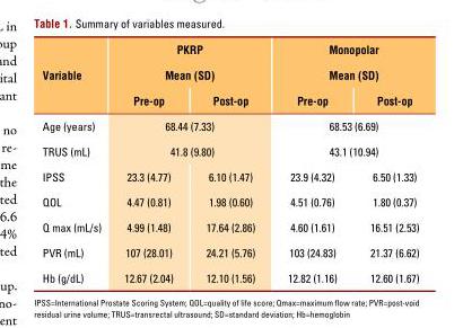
<table><thead><tr><td rowspan="2">Variable</td><td colspan="2">PKRP Mean (SD)</td><td colspan="2">Monopolar Mean (SD)</td></tr><tr><td>Pre-op</td><td>Post-op</td><td>Pre-op</td><td>Post-op</td></tr></thead><tbody><tr><td>Age (years)</td><td colspan="2">68.44 (7.33)</td><td colspan="2">68.53 (6.69)</td></tr><tr><td>TRUS (mL)</td><td colspan="2">41.8 (9.80)</td><td colspan="2">43.1 (10.94)</td></tr><tr><td>IPSS</td><td>23.3 (4.77)</td><td>6.10 (1.47)</td><td>23.9 (4.32)</td><td>6.50 (1.33)</td></tr><tr><td>QOL</td><td>4.47 (0.81)</td><td>1.98 (0.60)</td><td>4.51 (0.76)</td><td>1.80 (0.37)</td></tr><tr><td>Q max (mL/s)</td><td>4.99 (1.48)</td><td>17.64 (2.86)</td><td>4.60 (1.61)</td><td>16.51 (2.53)</td></tr><tr><td>PVR (mL)</td><td>107 (28.01)</td><td>24.21 (5.76)</td><td>103 (24.83)</td><td>21.37 (6.62)</td></tr><tr><td>Hb (g/dL)</td><td>12.67 (2.04)</td><td>12.10 (1.56)</td><td>12.82 (1.16)</td><td>12.60 (1.67)</td></tr></tbody></table>